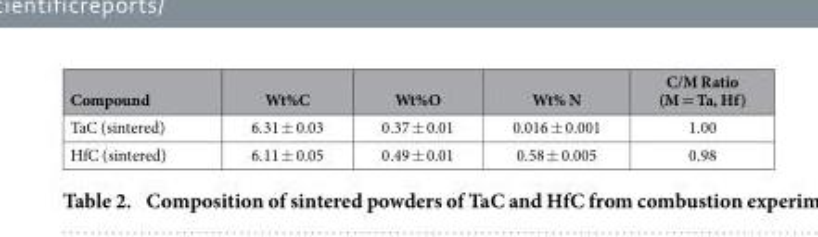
<table><thead><tr><td>Compound</td><td>Wt%C</td><td>Wt%O</td><td>Wt% N</td><td>C/M Ratio (M = Ta, Hf)</td></tr></thead><tbody><tr><td>TaC (sintered)</td><td>6.31 ± 0.03</td><td>0.37 ± 0.01</td><td>0.016 ± 0.001</td><td>1.00</td></tr><tr><td>HfC (sintered)</td><td>6.11 ± 0.05</td><td>0.49 ± 0.01</td><td>0.58 ± 0.005</td><td>0.98</td></tr></tbody></table>